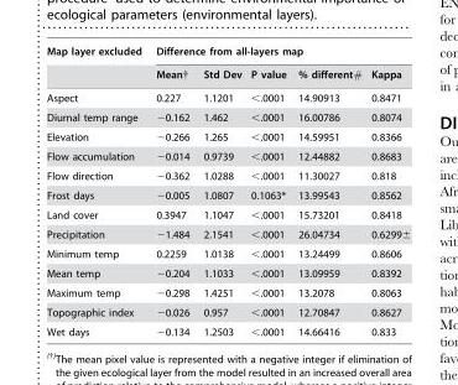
<table><thead><tr><td rowspan="2">Map layer excluded</td><td colspan="5">Difference from all-layers map</td></tr><tr><td>Mean†</td><td>Std Dev</td><td>P value</td><td>% different#</td><td>Kappa</td></tr></thead><tbody><tr><td>Aspect</td><td>0.227</td><td>1.1201</td><td>&lt;.0001</td><td>14.90913</td><td>0.8471</td></tr><tr><td>Diurnal temp range</td><td>−0.162</td><td>1.462</td><td>&lt;.0001</td><td>16.00786</td><td>0.8074</td></tr><tr><td>Elevation</td><td>−0.266</td><td>1.265</td><td>&lt;.0001</td><td>14.59951</td><td>0.8366</td></tr><tr><td>Flow accumulation</td><td>−0.014</td><td>0.9739</td><td>&lt;.0001</td><td>12.44882</td><td>0.8683</td></tr><tr><td>Flow direction</td><td>−0.362</td><td>1.0288</td><td>&lt;.0001</td><td>11.30027</td><td>0.818</td></tr><tr><td>Frost days</td><td>−0.005</td><td>1.0807</td><td>0.1063*</td><td>13.99543</td><td>0.8562</td></tr><tr><td>Land cover</td><td>0.3947</td><td>1.1047</td><td>&lt;.0001</td><td>15.73201</td><td>0.8418</td></tr><tr><td>Precipitation</td><td>−1.484</td><td>2.1541</td><td>&lt;.0001</td><td>26.04734</td><td>0.6299±</td></tr><tr><td>Minimum temp</td><td>0.2259</td><td>1.0138</td><td>&lt;.0001</td><td>13.24499</td><td>0.8606</td></tr><tr><td>Mean temp</td><td>−0.204</td><td>1.1033</td><td>&lt;.0001</td><td>13.09959</td><td>0.8392</td></tr><tr><td>Maximum temp</td><td>−0.298</td><td>1.4251</td><td>&lt;.0001</td><td>13.2078</td><td>0.8063</td></tr><tr><td>Topographic index</td><td>−0.026</td><td>0.957</td><td>&lt;.0001</td><td>12.70847</td><td>0.8627</td></tr><tr><td>Wet days</td><td>−0.134</td><td>1.2503</td><td>&lt;.0001</td><td>14.66416</td><td>0.833</td></tr></tbody></table>